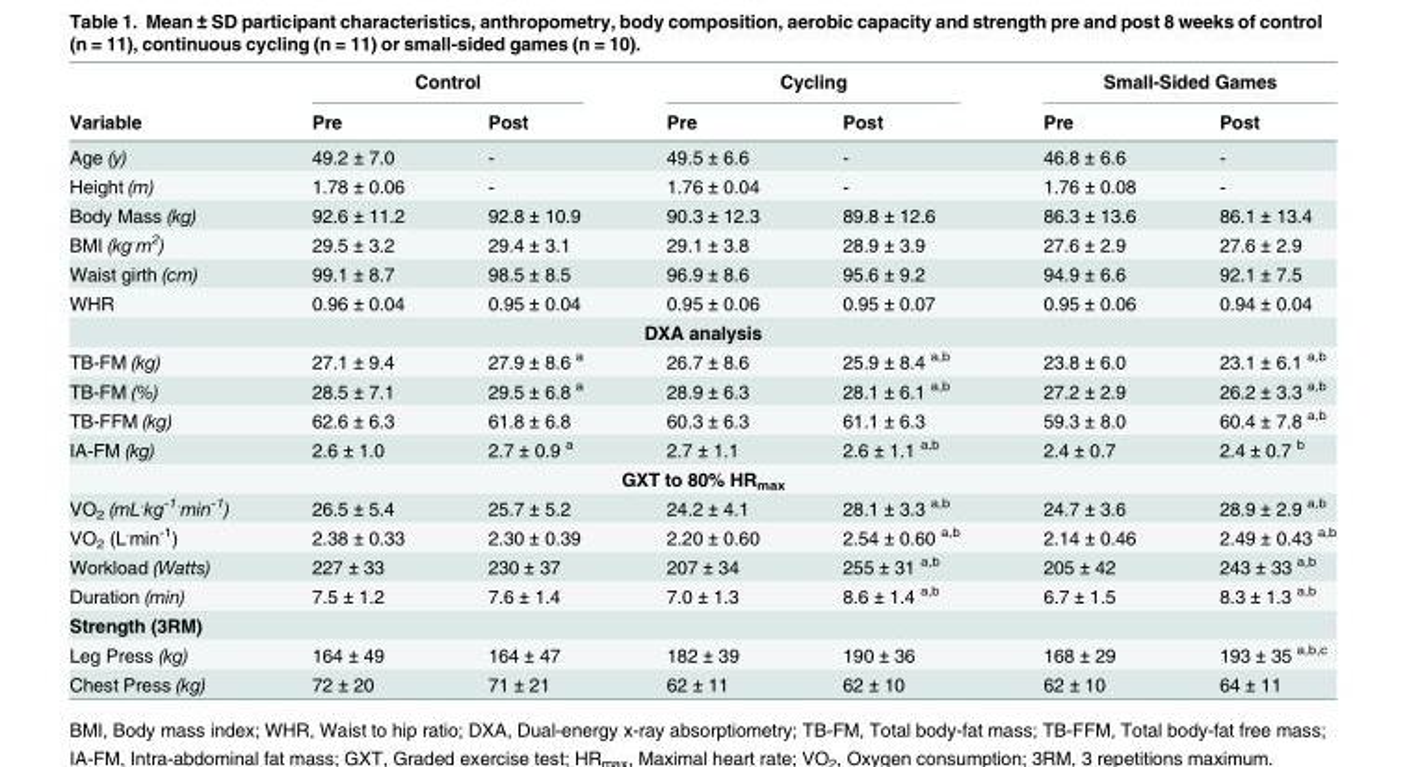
<table><thead><tr><td rowspan="2">Variable</td><td colspan="2">Control</td><td colspan="2">Cycling</td><td colspan="2">Small-Sided Games</td></tr><tr><td>Pre</td><td>Post</td><td>Pre</td><td>Post</td><td>Pre</td><td>Post</td></tr></thead><tbody><tr><td>Age (y)</td><td>49.2 ± 7.0</td><td>-</td><td>49.5 ± 6.6</td><td>-</td><td>46.8 ± 6.6</td><td>-</td></tr><tr><td>Height (m)</td><td>1.78 ± 0.06</td><td>-</td><td>1.76 ± 0.04</td><td>-</td><td>1.76 ± 0.08</td><td>-</td></tr><tr><td>Body Mass (kg)</td><td>92.6 ± 11.2</td><td>92.8 ± 10.9</td><td>90.3 ± 12.3</td><td>89.8 ± 12.6</td><td>86.3 ± 13.6</td><td>86.1 ± 13.4</td></tr><tr><td>BMI (kg<sup>.</sup>m<sup>2</sup>)</td><td>29.5 ± 3.2</td><td>29.4 ± 3.1</td><td>29.1 ± 3.8</td><td>28.9 ± 3.9</td><td>27.6 ± 2.9</td><td>27.6 ± 2.9</td></tr><tr><td>Waist girth (cm)</td><td>99.1 ± 8.7</td><td>98.5 ± 8.5</td><td>96.9 ± 8.6</td><td>95.6 ± 9.2</td><td>94.9 ± 6.6</td><td>92.1 ± 7.5</td></tr><tr><td>WHR</td><td>0.96 ± 0.04</td><td>0.95 ± 0.04</td><td>0.95 ± 0.06</td><td>0.95 ± 0.07</td><td>0.95 ± 0.06</td><td>0.94 ± 0.04</td></tr><tr><td colspan="7">DXA analysis</td></tr><tr><td>TB-FM (kg)</td><td>27.1 ± 9.4</td><td>27.9 ± 8.6 <sup>a</sup></td><td>26.7 ± 8.6</td><td>25.9 ± 8.4 <sup>a,b</sup></td><td>23.8 ± 6.0</td><td>23.1 ± 6.1 <sup>a,b</sup></td></tr><tr><td>TB-FM (%)</td><td>28.5 ± 7.1</td><td>29.5 ± 6.8 <sup>a</sup></td><td>28.9 ± 6.3</td><td>28.1 ± 6.1 <sup>a,b</sup></td><td>27.2 ± 2.9</td><td>26.2 ± 3.3 <sup>a,b</sup></td></tr><tr><td>TB-FFM (kg)</td><td>62.6 ± 6.3</td><td>61.8 ± 6.8</td><td>60.3 ± 6.3</td><td>61.1 ± 6.3</td><td>59.3 ± 8.0</td><td>60.4 ± 7.8 <sup>a,b</sup></td></tr><tr><td>IA-FM (kg)</td><td>2.6 ± 1.0</td><td>2.7 ± 0.9 <sup>a</sup></td><td>2.7 ± 1.1</td><td>2.6 ± 1.1 <sup>a,b</sup></td><td>2.4 ± 0.7</td><td>2.4 ± 0.7 <sup>b</sup></td></tr><tr><td colspan="7">GXT to 80% HR<sub>max</sub></td></tr><tr><td>VO<sub>2</sub> (mL<sup>.</sup>kg<sup>-1.</sup>min<sup>-1</sup>)</td><td>26.5 ± 5.4</td><td>25.7 ± 5.2</td><td>24.2 ± 4.1</td><td>28.1 ± 3.3 <sup>a,b</sup></td><td>24.7 ± 3.6</td><td>28.9 ± 2.9 <sup>a,b</sup></td></tr><tr><td>VO<sub>2</sub> (L<sup>.</sup>min<sup>-1</sup>)</td><td>2.38 ± 0.33</td><td>2.30 ± 0.39</td><td>2.20 ± 0.60</td><td>2.54 ± 0.60 <sup>a,b</sup></td><td>2.14 ± 0.46</td><td>2.49 ± 0.43 <sup>a,b</sup></td></tr><tr><td>Workload (Watts)</td><td>227 ± 33</td><td>230 ± 37</td><td>207 ± 34</td><td>255 ± 31 <sup>a,b</sup></td><td>205 ± 42</td><td>243 ± 33 <sup>a,b</sup></td></tr><tr><td>Duration (min)</td><td>7.5 ± 1.2</td><td>7.6 ± 1.4</td><td>7.0 ± 1.3</td><td>8.6 ± 1.4 <sup>a,b</sup></td><td>6.7 ± 1.5</td><td>8.3 ± 1.3 <sup>a,b</sup></td></tr><tr><td colspan="7">Strength (3RM)</td></tr><tr><td>Leg Press (kg)</td><td>164 ± 49</td><td>164 ± 47</td><td>182 ± 39</td><td>190 ± 36</td><td>168 ± 29</td><td>193 ± 35 <sup>a,b,c</sup></td></tr><tr><td>Chest Press (kg)</td><td>72 ± 20</td><td>71 ± 21</td><td>62 ± 11</td><td>62 ± 10</td><td>62 ± 10</td><td>64 ± 11</td></tr></tbody></table>